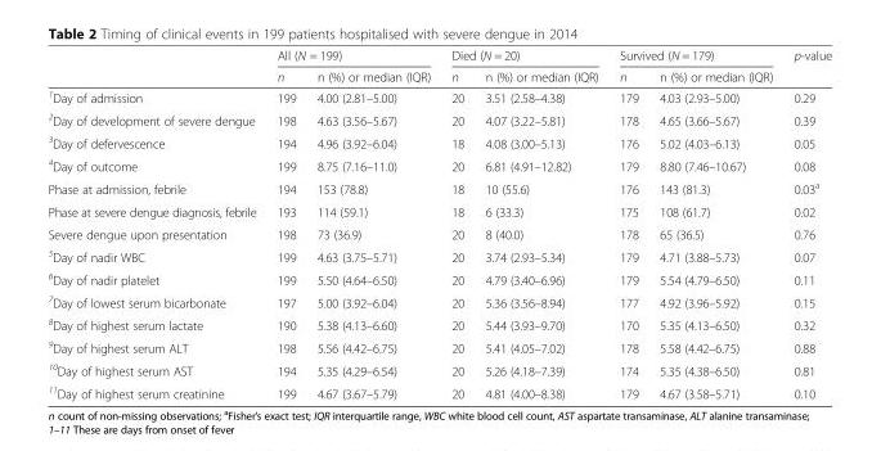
<table><thead><tr><td rowspan="2"></td><td colspan="2">All (N = 199)</td><td colspan="2">Died (N = 20)</td><td colspan="2">Survived (N = 179)</td><td rowspan="2">p-value</td></tr><tr><td>n</td><td>n (%) or median (IQR)</td><td>n</td><td>n (%) or median (IQR)</td><td>n</td><td>n (%) or median (IQR)</td></tr></thead><tbody><tr><td><sup>1</sup>Day of admission</td><td>199</td><td>4.00 (2.81–5.00)</td><td>20</td><td>3.51 (2.58–4.38)</td><td>179</td><td>4.03 (2.93–5.00)</td><td>0.29</td></tr><tr><td><sup>2</sup>Day of development of severe dengue</td><td>198</td><td>4.63 (3.56–5.67)</td><td>20</td><td>4.07 (3.22–5.81)</td><td>178</td><td>4.65 (3.66–5.67)</td><td>0.39</td></tr><tr><td><sup>3</sup>Day of defervescence</td><td>194</td><td>4.96 (3.92–6.04)</td><td>18</td><td>4.08 (3.00–5.13)</td><td>176</td><td>5.02 (4.03–6.13)</td><td>0.05</td></tr><tr><td><sup>4</sup>Day of outcome</td><td>199</td><td>8.75 (7.16–11.0)</td><td>20</td><td>6.81 (4.91–12.82)</td><td>179</td><td>8.80 (7.46–10.67)</td><td>0.08</td></tr><tr><td>Phase at admission, febrile</td><td>194</td><td>153 (78.8)</td><td>18</td><td>10 (55.6)</td><td>176</td><td>143 (81.3)</td><td>0.03<sup>a</sup></td></tr><tr><td>Phase at severe dengue diagnosis, febrile</td><td>193</td><td>114 (59.1)</td><td>18</td><td>6 (33.3)</td><td>175</td><td>108 (61.7)</td><td>0.02</td></tr><tr><td>Severe dengue upon presentation</td><td>198</td><td>73 (36.9)</td><td>20</td><td>8 (40.0)</td><td>178</td><td>65 (36.5)</td><td>0.76</td></tr><tr><td><sup>5</sup>Day of nadir WBC</td><td>199</td><td>4.63 (3.75–5.71)</td><td>20</td><td>3.74 (2.93–5.34)</td><td>179</td><td>4.71 (3.88–5.73)</td><td>0.07</td></tr><tr><td><sup>6</sup>Day of nadir platelet</td><td>199</td><td>5.50 (4.64–6.50)</td><td>20</td><td>4.79 (3.40–6.96)</td><td>179</td><td>5.54 (4.79–6.50)</td><td>0.11</td></tr><tr><td><sup>7</sup>Day of lowest serum bicarbonate</td><td>197</td><td>5.00 (3.92–6.04)</td><td>20</td><td>5.36 (3.56–8.94)</td><td>177</td><td>4.92 (3.96–5.92)</td><td>0.15</td></tr><tr><td><sup>8</sup>Day of highest serum lactate</td><td>190</td><td>5.38 (4.13–6.60)</td><td>20</td><td>5.44 (3.93–9.70)</td><td>170</td><td>5.35 (4.13–6.50)</td><td>0.32</td></tr><tr><td><sup>9</sup>Day of highest serum ALT</td><td>198</td><td>5.56 (4.42–6.75)</td><td>20</td><td>5.41 (4.05–7.02)</td><td>178</td><td>5.58 (4.42–6.75)</td><td>0.88</td></tr><tr><td><sup>10</sup>Day of highest serum AST</td><td>194</td><td>5.35 (4.29–6.54)</td><td>20</td><td>5.26 (4.18–7.39)</td><td>174</td><td>5.35 (4.38–6.50)</td><td>0.81</td></tr><tr><td><sup>11</sup>Day of highest serum creatinine</td><td>199</td><td>4.67 (3.67–5.79)</td><td>20</td><td>4.81 (4.00–8.38)</td><td>179</td><td>4.67 (3.58–5.71)</td><td>0.10</td></tr></tbody></table>